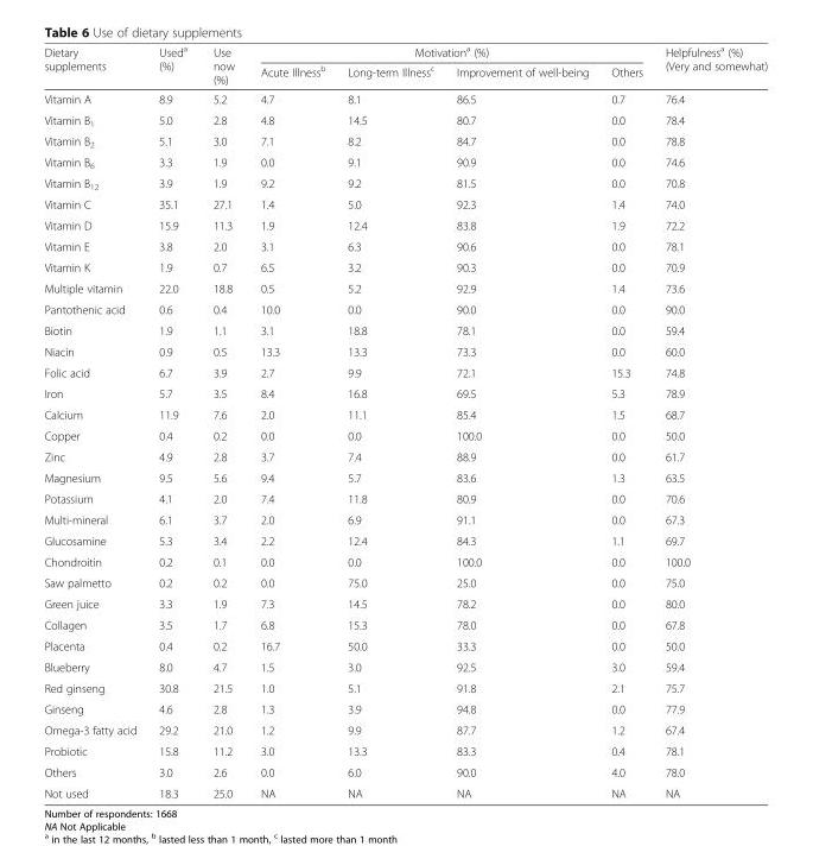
<table><thead><tr><td rowspan="2">Dietary supplements</td><td rowspan="2">Used<sup>a</sup> (%)</td><td rowspan="2">Use now (%)</td><td colspan="4">Motivation<sup>a</sup> (%)</td><td rowspan="2">Helpfulness<sup>a</sup> (%) (Very and somewhat)</td></tr><tr><td>Acute Illness<sup>b</sup></td><td>Long-term Illness<sup>c</sup></td><td>Improvement of well-being</td><td>Others</td></tr></thead><tbody><tr><td>Vitamin A</td><td>8.9</td><td>5.2</td><td>4.7</td><td>8.1</td><td>86.5</td><td>0.7</td><td>76.4</td></tr><tr><td>Vitamin B<sub>1</sub></td><td>5.0</td><td>2.8</td><td>4.8</td><td>14.5</td><td>80.7</td><td>0.0</td><td>78.4</td></tr><tr><td>Vitamin B<sub>2</sub></td><td>5.1</td><td>3.0</td><td>7.1</td><td>8.2</td><td>84.7</td><td>0.0</td><td>78.8</td></tr><tr><td>Vitamin B<sub>6</sub></td><td>3.3</td><td>1.9</td><td>0.0</td><td>9.1</td><td>90.9</td><td>0.0</td><td>74.6</td></tr><tr><td>Vitamin B<sub>12</sub></td><td>3.9</td><td>1.9</td><td>9.2</td><td>9.2</td><td>81.5</td><td>0.0</td><td>70.8</td></tr><tr><td>Vitamin C</td><td>35.1</td><td>27.1</td><td>1.4</td><td>5.0</td><td>92.3</td><td>1.4</td><td>74.0</td></tr><tr><td>Vitamin D</td><td>15.9</td><td>11.3</td><td>1.9</td><td>12.4</td><td>83.8</td><td>1.9</td><td>72.2</td></tr><tr><td>Vitamin E</td><td>3.8</td><td>2.0</td><td>3.1</td><td>6.3</td><td>90.6</td><td>0.0</td><td>78.1</td></tr><tr><td>Vitamin K</td><td>1.9</td><td>0.7</td><td>6.5</td><td>3.2</td><td>90.3</td><td>0.0</td><td>70.9</td></tr><tr><td>Multiple vitamin</td><td>22.0</td><td>18.8</td><td>0.5</td><td>5.2</td><td>92.9</td><td>1.4</td><td>73.6</td></tr><tr><td>Pantothenic acid</td><td>0.6</td><td>0.4</td><td>10.0</td><td>0.0</td><td>90.0</td><td>0.0</td><td>90.0</td></tr><tr><td>Biotin</td><td>1.9</td><td>1.1</td><td>3.1</td><td>18.8</td><td>78.1</td><td>0.0</td><td>59.4</td></tr><tr><td>Niacin</td><td>0.9</td><td>0.5</td><td>13.3</td><td>13.3</td><td>73.3</td><td>0.0</td><td>60.0</td></tr><tr><td>Folic acid</td><td>6.7</td><td>3.9</td><td>2.7</td><td>9.9</td><td>72.1</td><td>15.3</td><td>74.8</td></tr><tr><td>Iron</td><td>5.7</td><td>3.5</td><td>8.4</td><td>16.8</td><td>69.5</td><td>5.3</td><td>78.9</td></tr><tr><td>Calcium</td><td>11.9</td><td>7.6</td><td>2.0</td><td>11.1</td><td>85.4</td><td>1.5</td><td>68.7</td></tr><tr><td>Copper</td><td>0.4</td><td>0.2</td><td>0.0</td><td>0.0</td><td>100.0</td><td>0.0</td><td>50.0</td></tr><tr><td>Zinc</td><td>4.9</td><td>2.8</td><td>3.7</td><td>7.4</td><td>88.9</td><td>0.0</td><td>61.7</td></tr><tr><td>Magnesium</td><td>9.5</td><td>5.6</td><td>9.4</td><td>5.7</td><td>83.6</td><td>1.3</td><td>63.5</td></tr><tr><td>Potassium</td><td>4.1</td><td>2.0</td><td>7.4</td><td>11.8</td><td>80.9</td><td>0.0</td><td>70.6</td></tr><tr><td>Multi-mineral</td><td>6.1</td><td>3.7</td><td>2.0</td><td>6.9</td><td>91.1</td><td>0.0</td><td>67.3</td></tr><tr><td>Glucosamine</td><td>5.3</td><td>3.4</td><td>2.2</td><td>12.4</td><td>84.3</td><td>1.1</td><td>69.7</td></tr><tr><td>Chondroitin</td><td>0.2</td><td>0.1</td><td>0.0</td><td>0.0</td><td>100.0</td><td>0.0</td><td>100.0</td></tr><tr><td>Saw palmetto</td><td>0.2</td><td>0.2</td><td>0.0</td><td>75.0</td><td>25.0</td><td>0.0</td><td>75.0</td></tr><tr><td>Green juice</td><td>3.3</td><td>1.9</td><td>7.3</td><td>14.5</td><td>78.2</td><td>0.0</td><td>80.0</td></tr><tr><td>Collagen</td><td>3.5</td><td>1.7</td><td>6.8</td><td>15.3</td><td>78.0</td><td>0.0</td><td>67.8</td></tr><tr><td>Placenta</td><td>0.4</td><td>0.2</td><td>16.7</td><td>50.0</td><td>33.3</td><td>0.0</td><td>50.0</td></tr><tr><td>Blueberry</td><td>8.0</td><td>4.7</td><td>1.5</td><td>3.0</td><td>92.5</td><td>3.0</td><td>59.4</td></tr><tr><td>Red ginseng</td><td>30.8</td><td>21.5</td><td>1.0</td><td>5.1</td><td>91.8</td><td>2.1</td><td>75.7</td></tr><tr><td>Ginseng</td><td>4.6</td><td>2.8</td><td>1.3</td><td>3.9</td><td>94.8</td><td>0.0</td><td>77.9</td></tr><tr><td>Omega-3 fatty acid</td><td>29.2</td><td>21.0</td><td>1.2</td><td>9.9</td><td>87.7</td><td>1.2</td><td>67.4</td></tr><tr><td>Probiotic</td><td>15.8</td><td>11.2</td><td>3.0</td><td>13.3</td><td>83.3</td><td>0.4</td><td>78.1</td></tr><tr><td>Others</td><td>3.0</td><td>2.6</td><td>0.0</td><td>6.0</td><td>90.0</td><td>4.0</td><td>78.0</td></tr><tr><td>Not used</td><td>18.3</td><td>25.0</td><td>NA</td><td>NA</td><td>NA</td><td>NA</td><td>NA</td></tr></tbody></table>